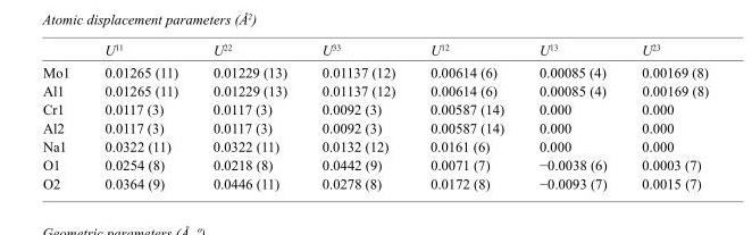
<table><thead><tr><td></td><td>U<sup>11</sup></td><td>U<sup>22</sup></td><td>U<sup>33</sup></td><td>U<sup>12</sup></td><td>U<sup>13</sup></td><td>U<sup>23</sup></td></tr></thead><tbody><tr><td>Mo1</td><td>0.01265 (11)</td><td>0.01229 (13)</td><td>0.01137 (12)</td><td>0.00614 (6)</td><td>0.00085 (4)</td><td>0.00169 (8)</td></tr><tr><td>Al1</td><td>0.01265 (11)</td><td>0.01229 (13)</td><td>0.01137 (12)</td><td>0.00614 (6)</td><td>0.00085 (4)</td><td>0.00169 (8)</td></tr><tr><td>Cr1</td><td>0.0117 (3)</td><td>0.0117 (3)</td><td>0.0092 (3)</td><td>0.00587 (14)</td><td>0.000</td><td>0.000</td></tr><tr><td>Al2</td><td>0.0117 (3)</td><td>0.0117 (3)</td><td>0.0092 (3)</td><td>0.00587 (14)</td><td>0.000</td><td>0.000</td></tr><tr><td>Na1</td><td>0.0322 (11)</td><td>0.0322 (11)</td><td>0.0132 (12)</td><td>0.0161 (6)</td><td>0.000</td><td>0.000</td></tr><tr><td>O1</td><td>0.0254 (8)</td><td>0.0218 (8)</td><td>0.0442 (9)</td><td>0.0071 (7)</td><td>−0.0038 (6)</td><td>0.0003 (7)</td></tr><tr><td>O2</td><td>0.0364 (9)</td><td>0.0446 (11)</td><td>0.0278 (8)</td><td>0.0172 (8)</td><td>−0.0093 (7)</td><td>0.0015 (7)</td></tr></tbody></table>